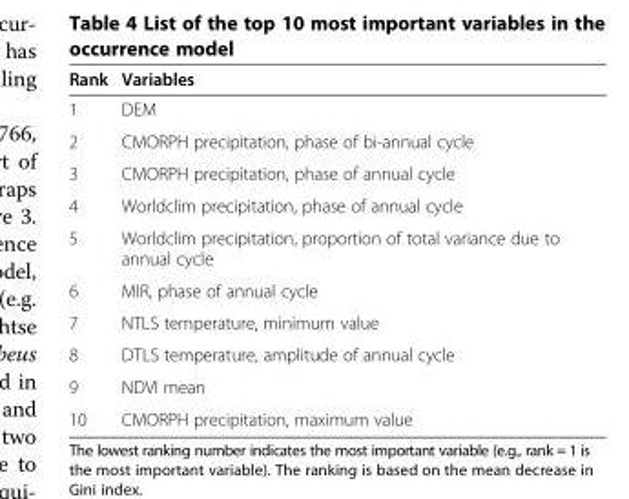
<table><thead><tr><td>Rank</td><td>Variables</td></tr></thead><tbody><tr><td>1</td><td>DEM</td></tr><tr><td>2</td><td>CMORPH precipitation, phase of bi-annual cycle</td></tr><tr><td>3</td><td>CMORPH precipitation, phase of annual cycle</td></tr><tr><td>4</td><td>Worldclim precipitation, phase of annual cycle</td></tr><tr><td>5</td><td>Worldclim precipitation, proportion of total variance due to annual cycle</td></tr><tr><td>6</td><td>MIR, phase of annual cycle</td></tr><tr><td>7</td><td>NTLS temperature, minimum value</td></tr><tr><td>8</td><td>DTLS temperature, amplitude of annual cycle</td></tr><tr><td>9</td><td>NDVI mean</td></tr><tr><td>10</td><td>CMORPH precipitation, maximum value</td></tr></tbody></table>